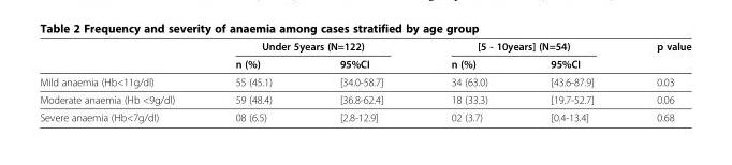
<table><thead><tr><td rowspan="2"></td><td colspan="2">Under 5years (N=122)</td><td colspan="2">[5 - 10years] (N=54)</td><td rowspan="2">p value</td></tr><tr><td>n (%)</td><td>95%CI</td><td>n (%)</td><td>95%CI</td></tr></thead><tbody><tr><td>Mild anaemia (Hb&lt;11g/dl)</td><td>55 (45.1)</td><td>[34.0-58.7]</td><td>34 (63.0)</td><td>[43.6-87.9]</td><td>0.03</td></tr><tr><td>Moderate anaemia (Hb &lt;9g/dl)</td><td>59 (48.4)</td><td>[36.8-62.4]</td><td>18 (33.3)</td><td>[19.7-52.7]</td><td>0.06</td></tr><tr><td>Severe anaemia (Hb&lt;7g/dl)</td><td>08 (6.5)</td><td>[2.8-12.9]</td><td>02 (3.7)</td><td>[0.4-13.4]</td><td>0.68</td></tr></tbody></table>